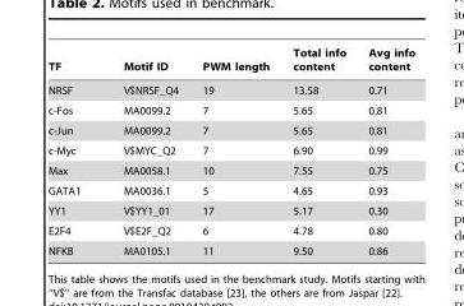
<table><thead><tr><td>TF</td><td>Motif ID</td><td>PWM length</td><td>Total info content</td><td>Avg info content</td></tr></thead><tbody><tr><td>NRSF</td><td>V$NRSF_Q4</td><td>19</td><td>13.58</td><td>0.71</td></tr><tr><td>c-Fos</td><td>MA0099.2</td><td>7</td><td>5.65</td><td>0.81</td></tr><tr><td>c-Jun</td><td>MA0099.2</td><td>7</td><td>5.65</td><td>0.81</td></tr><tr><td>c-Myc</td><td>V$MYC_Q2</td><td>7</td><td>6.90</td><td>0.99</td></tr><tr><td>Max</td><td>MA0058.1</td><td>10</td><td>7.55</td><td>0.75</td></tr><tr><td>GATA1</td><td>MA0036.1</td><td>5</td><td>4.65</td><td>0.93</td></tr><tr><td>YY1</td><td>V$YY1_01</td><td>17</td><td>5.17</td><td>0.30</td></tr><tr><td>E2F4</td><td>V$E2F_Q2</td><td>6</td><td>4.78</td><td>0.80</td></tr><tr><td>NFKB</td><td>MA0105.1</td><td>11</td><td>9.50</td><td>0.86</td></tr></tbody></table>